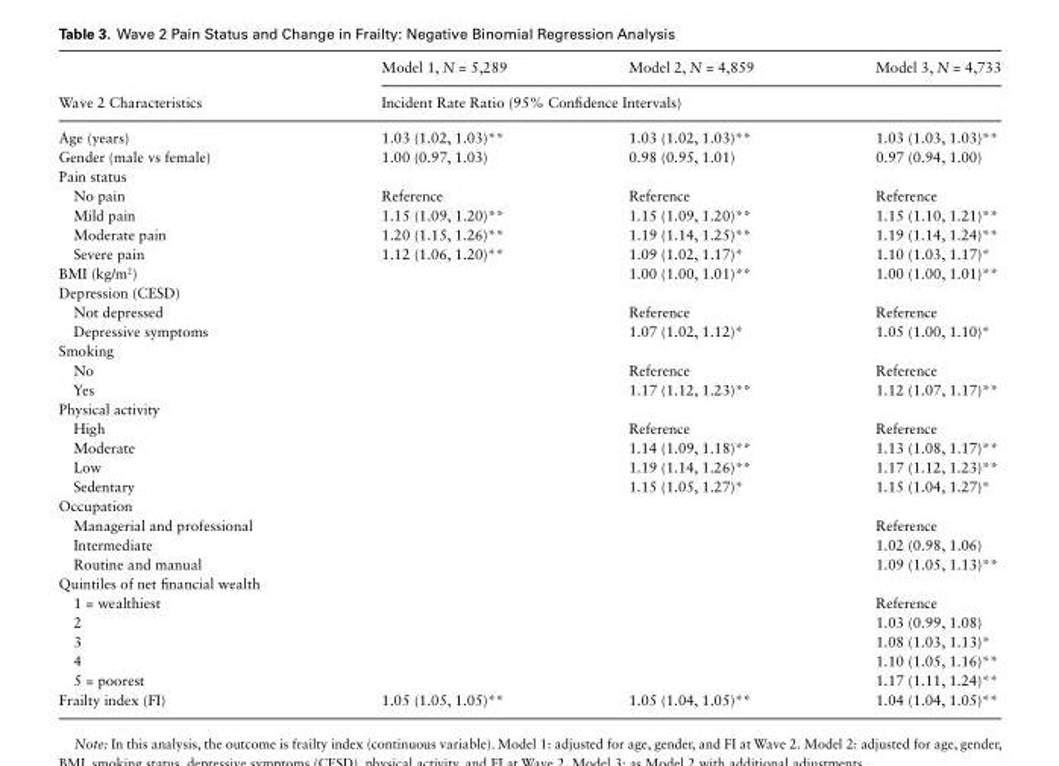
<table><thead><tr><td rowspan="2">Wave 2 Characteristics</td><td>Model 1, N = 5,289</td><td>Model 2, N = 4,859</td><td>Model 3, N = 4,733</td></tr><tr><td colspan="3">Incident Rate Ratio (95% Confidence Intervals)</td></tr></thead><tbody><tr><td>Age (years)</td><td>1.03 (1.02, 1.03)**</td><td>1.03 (1.02, 1.03)**</td><td>1.03 (1.03, 1.03)**</td></tr><tr><td>Gender (male vs female)</td><td>1.00 (0.97, 1.03)</td><td>0.98 (0.95, 1.01)</td><td>0.97 (0.94, 1.00)</td></tr><tr><td colspan="4">Pain status</td></tr><tr><td>No pain</td><td>Reference</td><td>Reference</td><td>Reference</td></tr><tr><td>Mild pain</td><td>1.15 (1.09, 1.20)**</td><td>1.15 (1.09, 1.20)**</td><td>1.15 (1.10, 1.21)**</td></tr><tr><td>Moderate pain</td><td>1.20 (1.15, 1.26)**</td><td>1.19 (1.14, 1.25)**</td><td>1.19 (1.14, 1.24)**</td></tr><tr><td>Severe pain</td><td>1.12 (1.06, 1.20)**</td><td>1.09 (1.02, 1.17)*</td><td>1.10 (1.03, 1.17)*</td></tr><tr><td>BMI (kg/m<sup>2</sup>)</td><td></td><td>1.00 (1.00, 1.01)**</td><td>1.00 (1.00, 1.01)**</td></tr><tr><td colspan="4">Depression (CESD)</td></tr><tr><td>Not depressed</td><td></td><td>Reference</td><td>Reference</td></tr><tr><td>Depressive symptoms</td><td></td><td>1.07 (1.02, 1.12)*</td><td>1.05 (1.00, 1.10)*</td></tr><tr><td colspan="4">Smoking</td></tr><tr><td>No</td><td></td><td>Reference</td><td>Reference</td></tr><tr><td>Yes</td><td></td><td>1.17 (1.12, 1.23)**</td><td>1.12 (1.07, 1.17)**</td></tr><tr><td colspan="4">Physical activity</td></tr><tr><td>High</td><td></td><td>Reference</td><td>Reference</td></tr><tr><td>Moderate</td><td></td><td>1.14 (1.09, 1.18)**</td><td>1.13 (1.08, 1.17)**</td></tr><tr><td>Low</td><td></td><td>1.19 (1.14, 1.26)**</td><td>1.17 (1.12, 1.23)**</td></tr><tr><td>Sedentary</td><td></td><td>1.15 (1.05, 1.27)*</td><td>1.15 (1.04, 1.27)*</td></tr><tr><td colspan="4">Occupation</td></tr><tr><td>Managerial and professional</td><td></td><td></td><td>Reference</td></tr><tr><td>Intermediate</td><td></td><td></td><td>1.02 (0.98, 1.06)</td></tr><tr><td>Routine and manual</td><td></td><td></td><td>1.09 (1.05, 1.13)**</td></tr><tr><td colspan="4">Quintiles of net financial wealth</td></tr><tr><td>1 = wealthiest</td><td></td><td></td><td>Reference</td></tr><tr><td>2</td><td></td><td></td><td>1.03 (0.99, 1.08)</td></tr><tr><td>3</td><td></td><td></td><td>1.08 (1.03, 1.13)*</td></tr><tr><td>4</td><td></td><td></td><td>1.10 (1.05, 1.16)**</td></tr><tr><td>5 = poorest</td><td></td><td></td><td>1.17 (1.11, 1.24)**</td></tr><tr><td>Frailty index (FI)</td><td>1.05 (1.05, 1.05)**</td><td>1.05 (1.04, 1.05)**</td><td>1.04 (1.04, 1.05)**</td></tr></tbody></table>